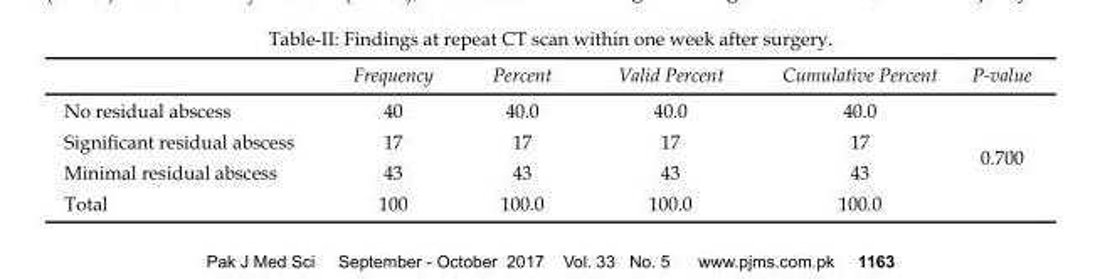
<table><thead><tr><td></td><td>Frequency</td><td>Percent</td><td>Valid Percent</td><td>Cumulative Percent</td><td>P-value</td></tr></thead><tbody><tr><td>No residual abscess</td><td>40</td><td>40.0</td><td>40.0</td><td>40.0</td><td rowspan="4">0.700</td></tr><tr><td>Significant residual abscess</td><td>17</td><td>17</td><td>17</td><td>17</td></tr><tr><td>Minimal residual abscess</td><td>43</td><td>43</td><td>43</td><td>43</td></tr><tr><td>Total</td><td>100</td><td>100.0</td><td>100.0</td><td>100.0</td></tr></tbody></table>